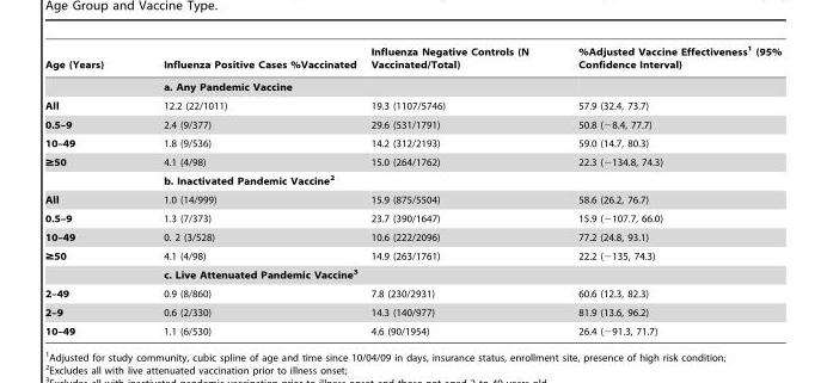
<table><thead><tr><td>Age (Years)</td><td>Influenza Positive Cases %Vaccinated</td><td>Influenza Negative Controls (N Vaccinated/Total)</td><td>%Adjusted Vaccine Effectiveness<sup>1</sup> (95% Confidence Interval)</td></tr></thead><tbody><tr><td></td><td colspan="2">a. Any Pandemic Vaccine</td><td></td></tr><tr><td>All</td><td>12.2 (22/1011)</td><td>19.3 (1107/5746)</td><td>57.9 (32.4, 73.7)</td></tr><tr><td>0.5–9</td><td>2.4 (9/377)</td><td>29.6 (531/1791)</td><td>50.8 (−8.4, 77.7)</td></tr><tr><td>10–49</td><td>1.8 (9/536)</td><td>14.2 (312/2193)</td><td>59.0 (14.7, 80.3)</td></tr><tr><td rowspan="2">≥50</td><td>4.1 (4/98)</td><td>15.0 (264/1762)</td><td>22.3 (−134.8, 74.3)</td></tr><tr><td colspan="3">b. Inactivated Pandemic Vaccine2</td></tr><tr><td>All</td><td>1.0 (14/999)</td><td>15.9 (875/5504)</td><td>58.6 (26.2, 76.7)</td></tr><tr><td>0.5–9</td><td>1.3 (7/373)</td><td>23.7 (390/1647)</td><td>15.9 (−107.7, 66.0)</td></tr><tr><td>10–49</td><td>0. 2 (3/528)</td><td>10.6 (222/2096)</td><td>77.2 (24.8, 93.1)</td></tr><tr><td rowspan="2">≥50</td><td>4.1 (4/98)</td><td>14.9 (263/1761)</td><td>22.2 (−135, 74.3)</td></tr><tr><td colspan="3">c. Live Attenuated Pandemic Vaccine3</td></tr><tr><td>2–49</td><td>0.9 (8/860)</td><td>7.8 (230/2931)</td><td>60.6 (12.3, 82.3)</td></tr><tr><td>2–9</td><td>0.6 (2/330)</td><td>14.3 (140/977)</td><td>81.9 (13.6, 96.2)</td></tr><tr><td>10–49</td><td>1.1 (6/530)</td><td>4.6 (90/1954)</td><td>26.4 (−91.3, 71.7)</td></tr></tbody></table>